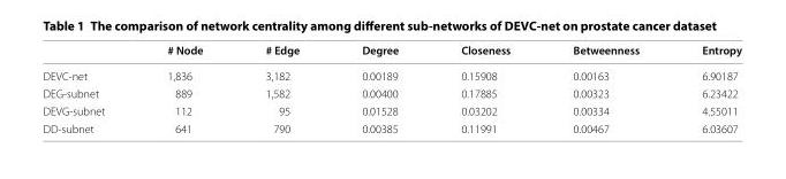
<table><thead><tr><td></td><td># Node</td><td># Edge</td><td>Degree</td><td>Closeness</td><td>Betweenness</td><td>Entropy</td></tr></thead><tbody><tr><td>DEVC-net</td><td>1,836</td><td>3,182</td><td>0.00189</td><td>0.15908</td><td>0.00163</td><td>6.90187</td></tr><tr><td>DEG-subnet</td><td>889</td><td>1,582</td><td>0.00400</td><td>0.17885</td><td>0.00323</td><td>6.23422</td></tr><tr><td>DEVG-subnet</td><td>112</td><td>95</td><td>0.01528</td><td>0.03202</td><td>0.00334</td><td>4.55011</td></tr><tr><td>DD-subnet</td><td>641</td><td>790</td><td>0.00385</td><td>0.11991</td><td>0.00467</td><td>6.03607</td></tr></tbody></table>